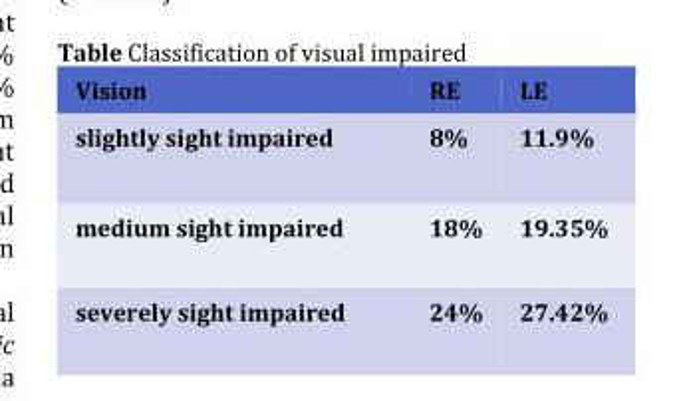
<table><thead><tr><td rowspan="4">Vision slightly sight impaired medium sight impaired severely sight impaired</td><td rowspan="4">RE 8% 18% 24%</td><td rowspan="4">LE 11.9% 19.35% 27.42%</td></tr><tr></tr><tr></tr><tr></tr></thead><tbody></tbody></table>